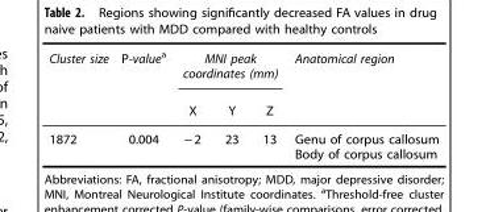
<table><thead><tr><td rowspan="2">Cluster size</td><td rowspan="2">P-value<sup>a</sup></td><td colspan="3">MNI peak coordinates (mm)</td><td rowspan="2">Anatomical region</td></tr><tr><td>X</td><td>Y</td><td>Z</td></tr></thead><tbody><tr><td rowspan="2">1872</td><td>0.004</td><td>− 2</td><td>23</td><td>13</td><td>Genu of corpus callosum</td></tr><tr><td></td><td></td><td></td><td></td><td>Body of corpus callosum</td></tr></tbody></table>